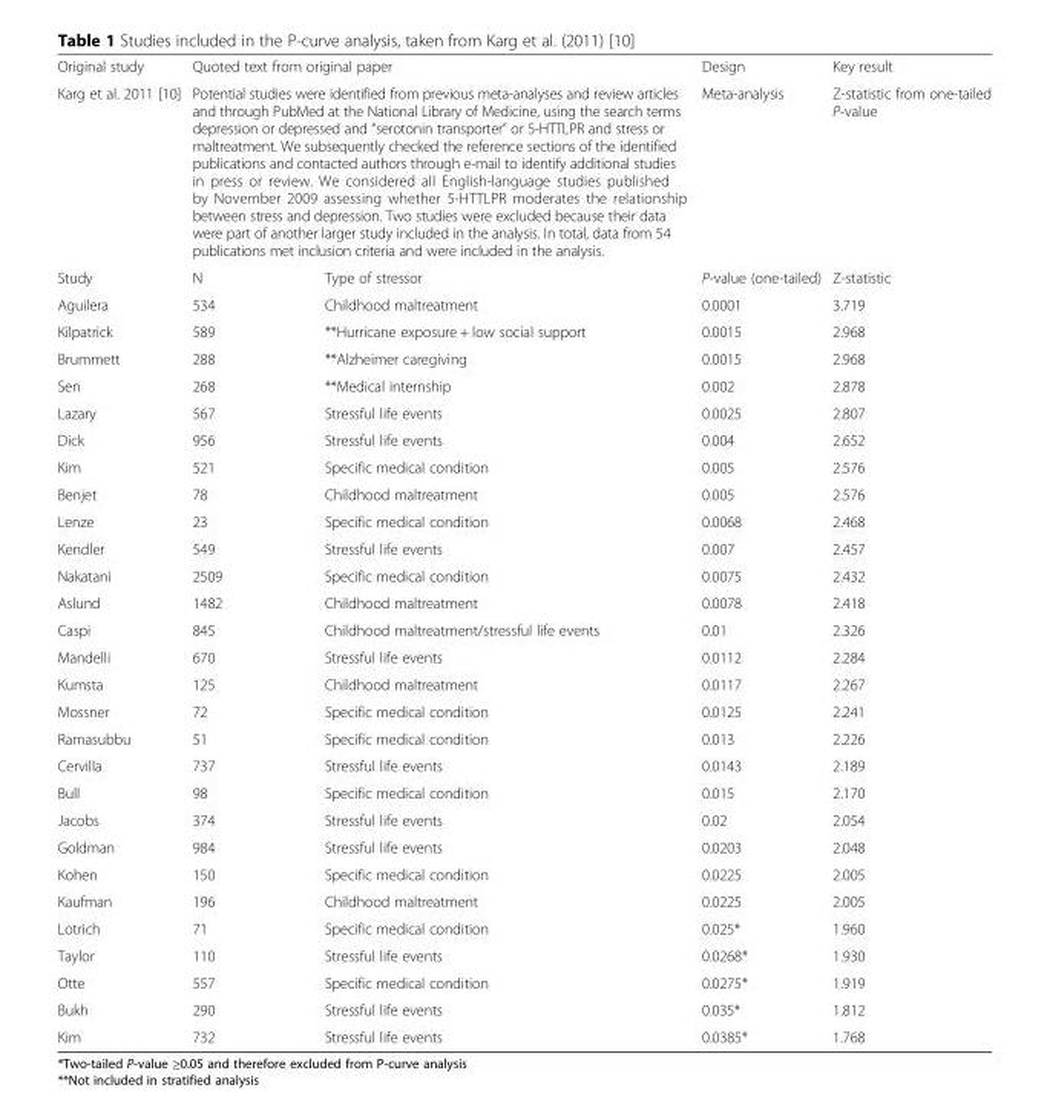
<table><tbody><tr><td>Original study</td><td colspan="2">Quoted text from original paper</td><td>Design</td><td>Key result</td></tr><tr><td>Karg et al. 2011 [10]</td><td colspan="2">Potential studies were identified from previous meta-analyses and review articles and through PubMed at the National Library of Medicine, using the search terms depression or depressed and “serotonin transporter” or 5-HTTLPR and stress or maltreatment. We subsequently checked the reference sections of the identified publications and contacted authors through e-mail to identify additional studies in press or review. We considered all English-language studies published by November 2009 assessing whether 5-HTTLPR moderates the relationship between stress and depression. Two studies were excluded because their data were part of another larger study included in the analysis. In total, data from 54 publications met inclusion criteria and were included in the analysis.</td><td>Meta-analysis</td><td>Z-statistic from one-tailed P-value</td></tr><tr><td>Study</td><td>N</td><td>Type of stressor</td><td>P-value (one-tailed)</td><td>Z-statistic</td></tr><tr><td>Aguilera</td><td>534</td><td>Childhood maltreatment</td><td>0.0001</td><td>3.719</td></tr><tr><td>Kilpatrick</td><td>589</td><td>**Hurricane exposure + low social support</td><td>0.0015</td><td>2.968</td></tr><tr><td>Brummett</td><td>288</td><td>**Alzheimer caregiving</td><td>0.0015</td><td>2.968</td></tr><tr><td>Sen</td><td>268</td><td>**Medical internship</td><td>0.002</td><td>2.878</td></tr><tr><td>Lazary</td><td>567</td><td>Stressful life events</td><td>0.0025</td><td>2.807</td></tr><tr><td>Dick</td><td>956</td><td>Stressful life events</td><td>0.004</td><td>2.652</td></tr><tr><td>Kim</td><td>521</td><td>Specific medical condition</td><td>0.005</td><td>2.576</td></tr><tr><td>Benjet</td><td>78</td><td>Childhood maltreatment</td><td>0.005</td><td>2.576</td></tr><tr><td>Lenze</td><td>23</td><td>Specific medical condition</td><td>0.0068</td><td>2.468</td></tr><tr><td>Kendler</td><td>549</td><td>Stressful life events</td><td>0.007</td><td>2.457</td></tr><tr><td>Nakatani</td><td>2509</td><td>Specific medical condition</td><td>0.0075</td><td>2.432</td></tr><tr><td>Aslund</td><td>1482</td><td>Childhood maltreatment</td><td>0.0078</td><td>2.418</td></tr><tr><td>Caspi</td><td>845</td><td>Childhood maltreatment/stressful life events</td><td>0.01</td><td>2.326</td></tr><tr><td>Mandelli</td><td>670</td><td>Stressful life events</td><td>0.0112</td><td>2.284</td></tr><tr><td>Kumsta</td><td>125</td><td>Childhood maltreatment</td><td>0.0117</td><td>2.267</td></tr><tr><td>Mossner</td><td>72</td><td>Specific medical condition</td><td>0.0125</td><td>2.241</td></tr><tr><td>Ramasubbu</td><td>51</td><td>Specific medical condition</td><td>0.013</td><td>2.226</td></tr><tr><td>Cervilla</td><td>737</td><td>Stressful life events</td><td>0.0143</td><td>2.189</td></tr><tr><td>Bull</td><td>98</td><td>Specific medical condition</td><td>0.015</td><td>2.170</td></tr><tr><td>Jacobs</td><td>374</td><td>Stressful life events</td><td>0.02</td><td>2.054</td></tr><tr><td>Goldman</td><td>984</td><td>Stressful life events</td><td>0.0203</td><td>2.048</td></tr><tr><td>Kohen</td><td>150</td><td>Specific medical condition</td><td>0.0225</td><td>2.005</td></tr><tr><td>Kaufman</td><td>196</td><td>Childhood maltreatment</td><td>0.0225</td><td>2.005</td></tr><tr><td>Lotrich</td><td>71</td><td>Specific medical condition</td><td>0.025*</td><td>1.960</td></tr><tr><td>Taylor</td><td>110</td><td>Stressful life events</td><td>0.0268*</td><td>1.930</td></tr><tr><td>Otte</td><td>557</td><td>Specific medical condition</td><td>0.0275*</td><td>1.919</td></tr><tr><td>Bukh</td><td>290</td><td>Stressful life events</td><td>0.035*</td><td>1.812</td></tr><tr><td>Kim</td><td>732</td><td>Stressful life events</td><td>0.0385*</td><td>1.768</td></tr></tbody></table>